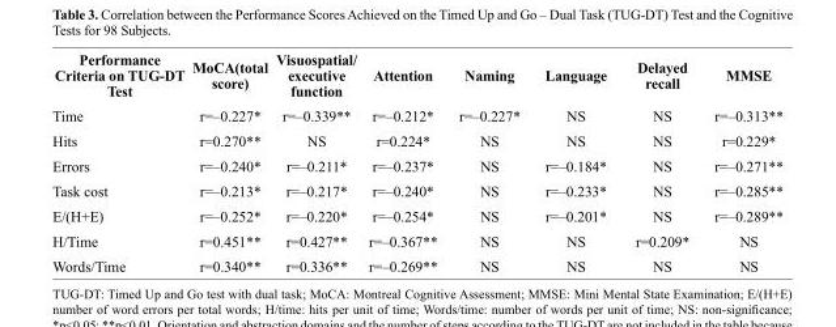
<table><thead><tr><td>Performance Criteria on TUG-DT Test</td><td>MoCA(total score)</td><td>Visuospatial/ executive function</td><td>Attention</td><td>Naming</td><td>Language</td><td>Delayed recall</td><td>MMSE</td></tr></thead><tbody><tr><td>Time</td><td>r=–0.227*</td><td>r=–0.339**</td><td>r=–0.212*</td><td>r=–0.227*</td><td>NS</td><td>NS</td><td>r=–0.313**</td></tr><tr><td>Hits</td><td>r=0.270**</td><td>NS</td><td>r=0.224*</td><td>NS</td><td>NS</td><td>NS</td><td>r=0.229*</td></tr><tr><td>Errors</td><td>r=–0.240*</td><td>r=–0.211*</td><td>r=–0.237*</td><td>NS</td><td>r=–0.184*</td><td>NS</td><td>r=–0.271**</td></tr><tr><td>Task cost</td><td>r=–0.213*</td><td>r=–0.217*</td><td>r=–0.240*</td><td>NS</td><td>r=–0.233*</td><td>NS</td><td>r=–0.285**</td></tr><tr><td>E/(H+E)</td><td>r=–0.252*</td><td>r=–0.220*</td><td>r=–0.254*</td><td>NS</td><td>r=–0.201*</td><td>NS</td><td>r=–0.289**</td></tr><tr><td>H/Time</td><td>r=0.451**</td><td>r=0.427**</td><td>r=–0.367**</td><td>NS</td><td>NS</td><td>r=0.209*</td><td>NS</td></tr><tr><td>Words/Time</td><td>r=0.340**</td><td>r=0.336**</td><td>r=–0.269**</td><td>NS</td><td>NS</td><td>NS</td><td>NS</td></tr></tbody></table>